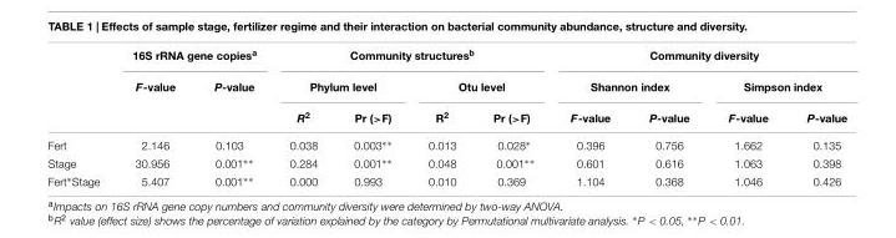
<table><thead><tr><td rowspan="3"></td><td colspan="2">16S rRNA gene copies<sup>a</sup></td><td colspan="4">Community structures<sup>b</sup></td><td colspan="4">Community diversity</td></tr><tr><td rowspan="2">F-value</td><td rowspan="2">P-value</td><td colspan="2">Phylum level</td><td colspan="2">Otu level</td><td colspan="2">Shannon index</td><td colspan="2">Simpson index</td></tr><tr><td>R<sup>2</sup></td><td>Pr (&gt;F)</td><td>R<sup>2</sup></td><td>Pr (&gt;F)</td><td>F-value</td><td>P-value</td><td>F-value</td><td>P-value</td></tr></thead><tbody><tr><td>Fert</td><td>2.146</td><td>0.103</td><td>0.038</td><td>0.003∗∗</td><td>0.013</td><td>0.028∗</td><td>0.396</td><td>0.756</td><td>1.662</td><td>0.135</td></tr><tr><td>Stage</td><td>30.956</td><td>0.001∗∗</td><td>0.284</td><td>0.001∗∗</td><td>0.048</td><td>0.001∗∗</td><td>0.601</td><td>0.616</td><td>1.063</td><td>0.398</td></tr><tr><td>Fert∗Stage</td><td>5.407</td><td>0.001∗∗</td><td>0.000</td><td>0.993</td><td>0.010</td><td>0.369</td><td>1.104</td><td>0.368</td><td>1.046</td><td>0.426</td></tr></tbody></table>